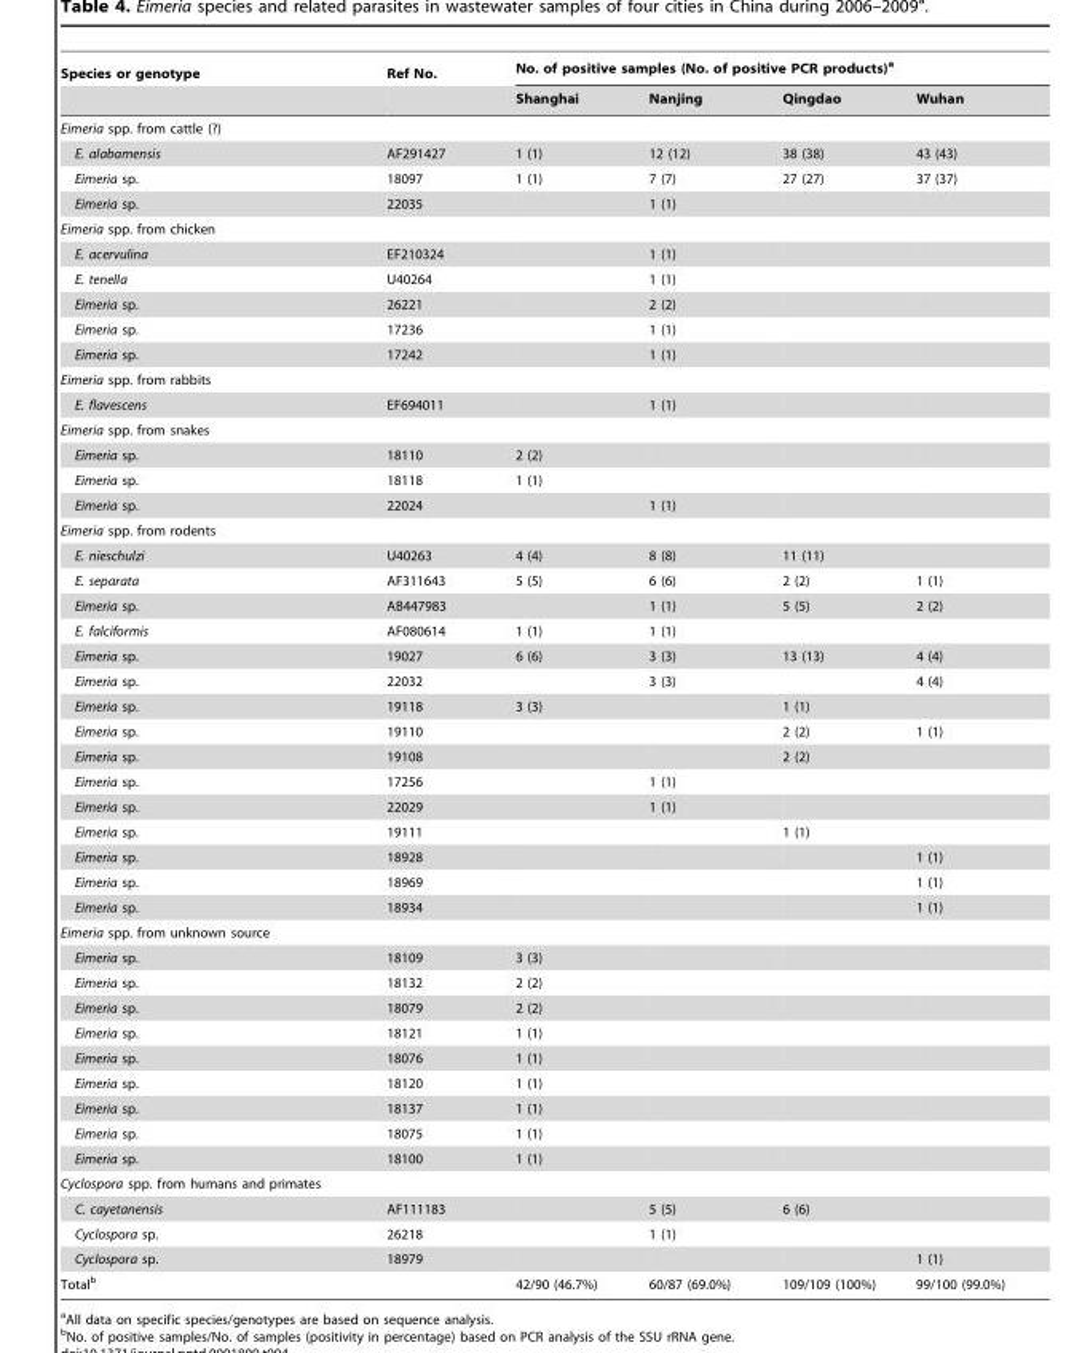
<table><thead><tr><td rowspan="2">Species or genotype</td><td rowspan="2">Ref No.</td><td colspan="4">No. of positive samples (No. of positive PCR products)<sup>a</sup></td></tr><tr><td>Shanghai</td><td>Nanjing</td><td>Qingdao</td><td>Wuhan</td></tr></thead><tbody><tr><td colspan="6">Eimeria spp. from cattle (?)</td></tr><tr><td>E. alabamensis</td><td>AF291427</td><td>1 (1)</td><td>12 (12)</td><td>38 (38)</td><td>43 (43)</td></tr><tr><td>Eimeria sp.</td><td>18097</td><td>1 (1)</td><td>7 (7)</td><td>27 (27)</td><td>37 (37)</td></tr><tr><td>Eimeria sp.</td><td>22035</td><td></td><td>1 (1)</td><td></td><td></td></tr><tr><td colspan="6">Eimeria spp. from chicken</td></tr><tr><td>E. acervulina</td><td>EF210324</td><td></td><td>1 (1)</td><td></td><td></td></tr><tr><td>E. tenella</td><td>U40264</td><td></td><td>1 (1)</td><td></td><td></td></tr><tr><td>Eimeria sp.</td><td>26221</td><td></td><td>2 (2)</td><td></td><td></td></tr><tr><td>Eimeria sp.</td><td>17236</td><td></td><td>1 (1)</td><td></td><td></td></tr><tr><td>Eimeria sp.</td><td>17242</td><td></td><td>1 (1)</td><td></td><td></td></tr><tr><td colspan="6">Eimeria spp. from rabbits</td></tr><tr><td>E. flavescens</td><td>EF694011</td><td></td><td>1 (1)</td><td></td><td></td></tr><tr><td colspan="6">Eimeria spp. from snakes</td></tr><tr><td>Eimeria sp.</td><td>18110</td><td>2 (2)</td><td></td><td></td><td></td></tr><tr><td>Eimeria sp.</td><td>18118</td><td>1 (1)</td><td></td><td></td><td></td></tr><tr><td>Eimeria sp.</td><td>22024</td><td></td><td>1 (1)</td><td></td><td></td></tr><tr><td colspan="6">Eimeria spp. from rodents</td></tr><tr><td>E. nieschulzi</td><td>U40263</td><td>4 (4)</td><td>8 (8)</td><td>11 (11)</td><td></td></tr><tr><td>E. separata</td><td>AF311643</td><td>5 (5)</td><td>6 (6)</td><td>2 (2)</td><td>1 (1)</td></tr><tr><td>Eimeria sp.</td><td>AB447983</td><td></td><td>1 (1)</td><td>5 (5)</td><td>2 (2)</td></tr><tr><td>E. falciformis</td><td>AF080614</td><td>1 (1)</td><td>1 (1)</td><td></td><td></td></tr><tr><td>Eimeria sp.</td><td>19027</td><td>6 (6)</td><td>3 (3)</td><td>13 (13)</td><td>4 (4)</td></tr><tr><td>Eimeria sp.</td><td>22032</td><td></td><td>3 (3)</td><td></td><td>4 (4)</td></tr><tr><td>Eimeria sp.</td><td>19118</td><td>3 (3)</td><td></td><td>1 (1)</td><td></td></tr><tr><td>Eimeria sp.</td><td>19110</td><td></td><td></td><td>2 (2)</td><td>1 (1)</td></tr><tr><td>Eimeria sp.</td><td>19108</td><td></td><td></td><td>2 (2)</td><td></td></tr><tr><td>Eimeria sp.</td><td>17256</td><td></td><td>1 (1)</td><td></td><td></td></tr><tr><td>Eimeria sp.</td><td>22029</td><td></td><td>1 (1)</td><td></td><td></td></tr><tr><td>Eimeria sp.</td><td>19111</td><td></td><td></td><td>1 (1)</td><td></td></tr><tr><td>Eimeria sp.</td><td>18928</td><td></td><td></td><td></td><td>1 (1)</td></tr><tr><td>Eimeria sp.</td><td>18969</td><td></td><td></td><td></td><td>1 (1)</td></tr><tr><td>Eimeria sp.</td><td>18934</td><td></td><td></td><td></td><td>1 (1)</td></tr><tr><td colspan="6">Eimeria spp. from unknown source</td></tr><tr><td>Eimeria sp.</td><td>18109</td><td>3 (3)</td><td></td><td></td><td></td></tr><tr><td>Eimeria sp.</td><td>18132</td><td>2 (2)</td><td></td><td></td><td></td></tr><tr><td>Eimeria sp.</td><td>18079</td><td>2 (2)</td><td></td><td></td><td></td></tr><tr><td>Eimeria sp.</td><td>18121</td><td>1 (1)</td><td></td><td></td><td></td></tr><tr><td>Eimeria sp.</td><td>18076</td><td>1 (1)</td><td></td><td></td><td></td></tr><tr><td>Eimeria sp.</td><td>18120</td><td>1 (1)</td><td></td><td></td><td></td></tr><tr><td>Eimeria sp.</td><td>18137</td><td>1 (1)</td><td></td><td></td><td></td></tr><tr><td>Eimeria sp.</td><td>18075</td><td>1 (1)</td><td></td><td></td><td></td></tr><tr><td>Eimeria sp.</td><td>18100</td><td>1 (1)</td><td></td><td></td><td></td></tr><tr><td colspan="6">Cyclospora spp. from humans and primates</td></tr><tr><td>C. cayetanensis</td><td>AF111183</td><td></td><td>5 (5)</td><td>6 (6)</td><td></td></tr><tr><td>Cyclospora sp.</td><td>26218</td><td></td><td>1 (1)</td><td></td><td></td></tr><tr><td>Cyclospora sp.</td><td>18979</td><td></td><td></td><td></td><td>1 (1)</td></tr><tr><td>Total<sup>b</sup></td><td></td><td>42/90 (46.7%)</td><td>60/87 (69.0%)</td><td>109/109 (100%)</td><td>99/100 (99.0%)</td></tr></tbody></table>